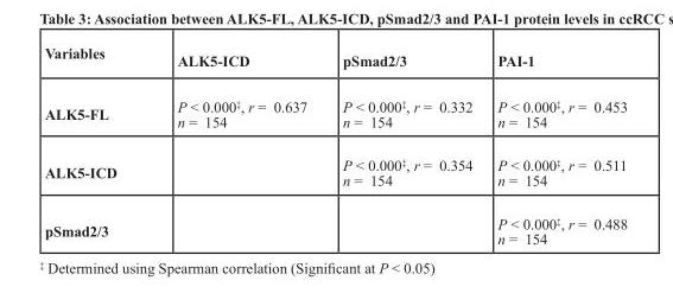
<table><thead><tr><td>Variables</td><td>ALK5-IcD</td><td>psmad2/3</td><td>PAI-1</td></tr></thead><tbody><tr><td>ALK5-FL</td><td>P &lt; 0.000<sup>‡</sup>, r = 0.637 n = 154</td><td>P &lt; 0.000<sup>‡</sup>, r = 0.332 n = 154</td><td>P &lt; 0.000<sup>‡</sup>, r = 0.453 n = 154</td></tr><tr><td>ALK5-IcD</td><td></td><td>P &lt; 0.000<sup>‡</sup>, r = 0.354 n = 154</td><td>P &lt; 0.000<sup>‡</sup>, r = 0.511 n = 154</td></tr><tr><td>psmad2/3</td><td></td><td></td><td>P &lt; 0.000<sup>‡</sup>, r = 0.488 n = 154</td></tr></tbody></table>